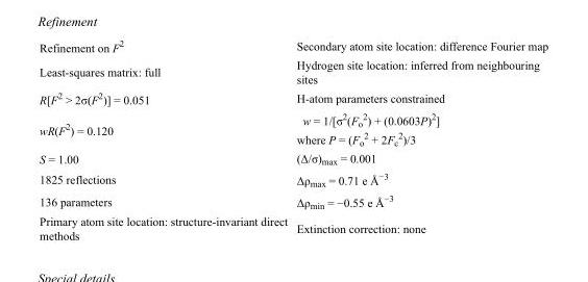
<table><tbody><tr><td>Refinement on F<sup>2</sup></td><td>Secondary atom site location: difference Fourier map</td></tr><tr><td>Least-squares matrix: full</td><td>Hydrogen site location: inferred from neighbouring sites</td></tr><tr><td>R[F<sup>2</sup> &gt; 2σ(F<sup>2</sup>)] = 0.051</td><td>H-atom parameters constrained</td></tr><tr><td>wR(F<sup>2</sup>) = 0.120</td><td>w = 1/[σ<sup>2</sup>(F<sub>o</sub> <sup>2</sup>) + (0.0603P)<sup>2</sup>] where P = (F<sub>o</sub> <sup>2</sup> + 2F<sub>c</sub> <sup>2</sup>)/3</td></tr><tr><td>S = 1.00</td><td>(Δ/σ)<sub>max</sub> = 0.001</td></tr><tr><td>1825 reflections</td><td>Δρ<sub>max</sub> = 0.71 e Å<sup>−3</sup></td></tr><tr><td>136 parameters</td><td>Δρ<sub>min</sub> = −0.55 e Å<sup>−3</sup></td></tr><tr><td>Primary atom site location: structure-invariant direct methods</td><td>Extinction correction: none</td></tr></tbody></table>